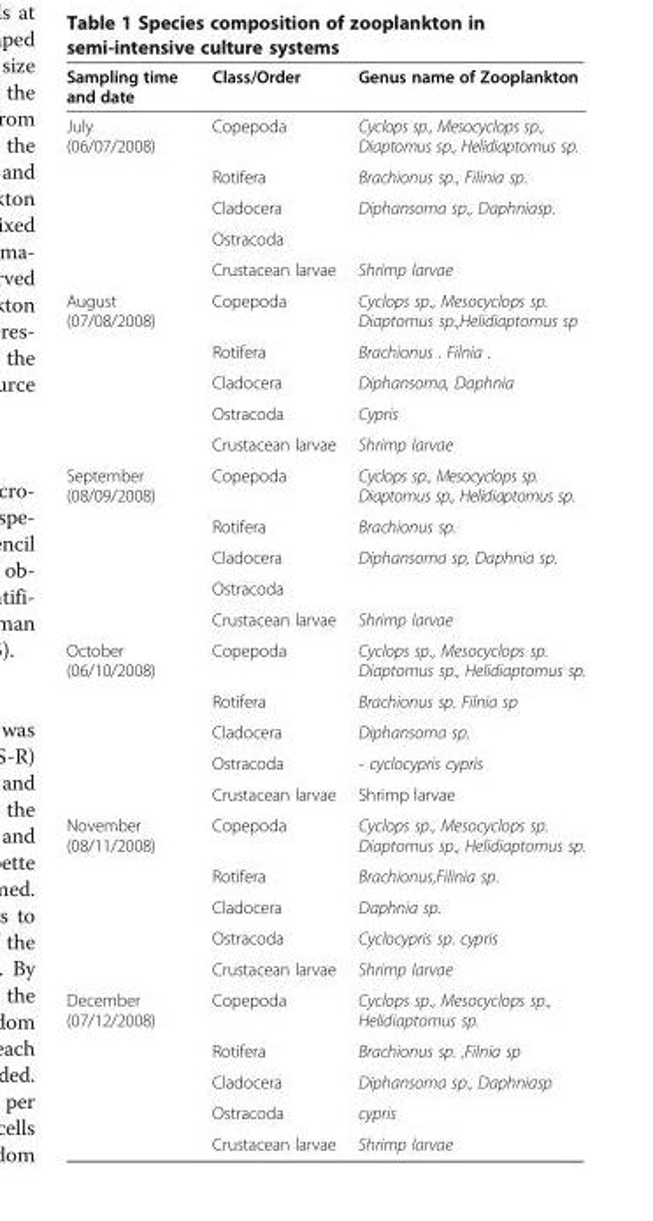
<table><thead><tr><td>Sampling time and date</td><td>Class/Order</td><td>Genus name of Zooplankton</td></tr></thead><tbody><tr><td rowspan="5">July (06/07/2008)</td><td>Copepoda</td><td>Cyclops sp., Mesocyclops sp., Diaptomus sp., Helidiaptomus sp.</td></tr><tr><td>Rotifera</td><td>Brachionus sp., Filinia sp.</td></tr><tr><td>Cladocera</td><td>Diphansoma sp., Daphniasp.</td></tr><tr><td>Ostracoda</td><td></td></tr><tr><td>Crustacean larvae</td><td>Shrimp larvae</td></tr><tr><td rowspan="5">August (07/08/2008)</td><td>Copepoda</td><td>Cyclops sp., Mesocyclops sp. Diaptomus sp.,Helidiaptomus sp</td></tr><tr><td>Rotifera</td><td>Brachionus . Filnia .</td></tr><tr><td>Cladocera</td><td>Diphansoma, Daphnia</td></tr><tr><td>Ostracoda</td><td>Cypris</td></tr><tr><td>Crustacean larvae</td><td>Shrimp larvae</td></tr><tr><td rowspan="5">September (08/09/2008)</td><td>Copepoda</td><td>Cyclops sp., Mesocyclops sp. Diaptomus sp., Helidiaptomus sp.</td></tr><tr><td>Rotifera</td><td>Brachionus sp.</td></tr><tr><td>Cladocera</td><td>Diphansoma sp, Daphnia sp.</td></tr><tr><td>Ostracoda</td><td></td></tr><tr><td>Crustacean larvae</td><td>Shrimp larvae</td></tr><tr><td rowspan="5">October (06/10/2008)</td><td>Copepoda</td><td>Cyclops sp., Mesocyclops sp. Diaptomus sp., Helidiaptomus sp.</td></tr><tr><td>Rotifera</td><td>Brachionus sp. Filnia sp</td></tr><tr><td>Cladocera</td><td>Diphansoma sp.</td></tr><tr><td>Ostracoda</td><td>- cyclocypris cypris</td></tr><tr><td>Crustacean larvae</td><td>Shrimp larvae</td></tr><tr><td rowspan="5">November (08/11/2008)</td><td>Copepoda</td><td>Cyclops sp., Mesocyclops sp. Diaptomus sp., Helidiaptomus sp.</td></tr><tr><td>Rotifera</td><td>Brachionus,Filinia sp.</td></tr><tr><td>Cladocera</td><td>Daphnia sp.</td></tr><tr><td>Ostracoda</td><td>Cyclocypris sp. cypris</td></tr><tr><td>Crustacean larvae</td><td>Shrimp larvae</td></tr><tr><td rowspan="5">December (07/12/2008)</td><td>Copepoda</td><td>Cyclops sp., Mesocyclops sp., Helidiaptomus sp.</td></tr><tr><td>Rotifera</td><td>Brachionus sp. ,Filnia sp</td></tr><tr><td>Cladocera</td><td>Diphansoma sp., Daphniasp</td></tr><tr><td>Ostracoda</td><td>cypris</td></tr><tr><td>Crustacean larvae</td><td>Shrimp larvae</td></tr></tbody></table>